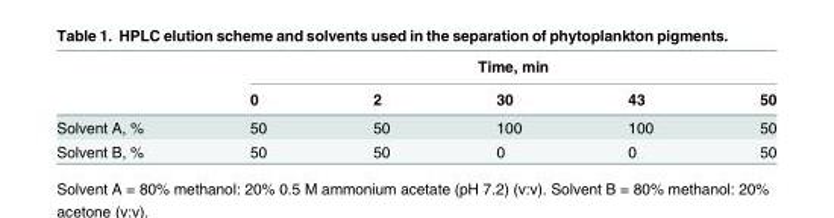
<table><thead><tr><td rowspan="2"></td><td colspan="5">Time, min</td></tr><tr><td>0</td><td>2</td><td>30</td><td>43</td><td>50</td></tr></thead><tbody><tr><td>Solvent A, %</td><td>50</td><td>50</td><td>100</td><td>100</td><td>50</td></tr><tr><td>Solvent B, %</td><td>50</td><td>50</td><td>0</td><td>0</td><td>50</td></tr></tbody></table>